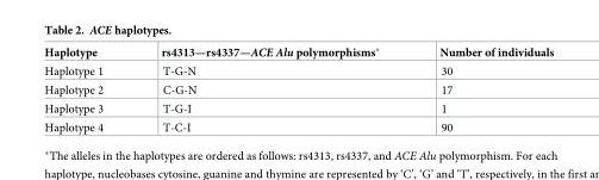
<table><thead><tr><td>Haplotype</td><td>rs4313—rs4337—ACE Alu polymorphisms*</td><td>Number of individuals</td></tr></thead><tbody><tr><td>Haplotype 1</td><td>T-G-N</td><td>30</td></tr><tr><td>Haplotype 2</td><td>C-G-N</td><td>17</td></tr><tr><td>Haplotype 3</td><td>T-G-I</td><td>1</td></tr><tr><td>Haplotype 4</td><td>T-C-I</td><td>90</td></tr></tbody></table>